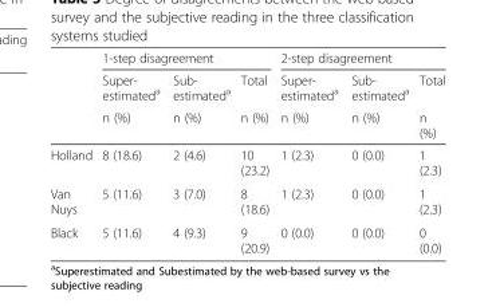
<table><thead><tr><td rowspan="3"></td><td colspan="3">1-step disagreement</td><td colspan="3">2-step disagreement</td></tr><tr><td rowspan="2">Super- estimated<sup>a</sup> n (%)</td><td rowspan="2">Sub- estimated<sup>a</sup> n (%)</td><td rowspan="2">Total n (%)</td><td rowspan="2">Super- estimated<sup>a</sup> n (%)</td><td rowspan="2">Sub- estimated<sup>a</sup> n (%)</td><td rowspan="2">Total n (%)</td></tr><tr></tr></thead><tbody><tr><td>Holland</td><td>8 (18.6)</td><td>2 (4.6)</td><td>10 (23.2)</td><td>1 (2.3)</td><td>0 (0.0)</td><td>1 (2.3)</td></tr><tr><td>Van Nuys</td><td>5 (11.6)</td><td>3 (7.0)</td><td>8 (18.6)</td><td>1 (2.3)</td><td>0 (0.0)</td><td>1 (2.3)</td></tr><tr><td>Black</td><td>5 (11.6)</td><td>4 (9.3)</td><td>9 (20.9)</td><td>0 (0.0)</td><td>0 (0.0)</td><td>0 (0.0)</td></tr></tbody></table>